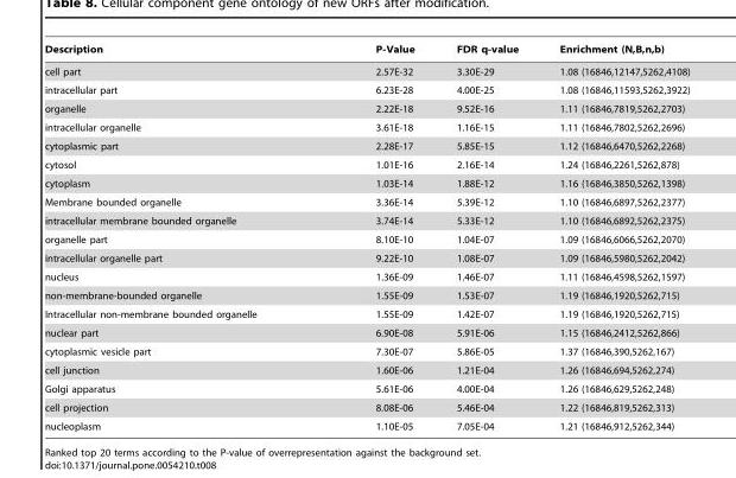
<table><thead><tr><td>Description</td><td>P-Value</td><td>FDR q-value</td><td>Enrichment (N,B,n,b)</td></tr></thead><tbody><tr><td>cell part</td><td>2.57E-32</td><td>3.30E-29</td><td>1.08 (16846,12147,5262,4108)</td></tr><tr><td>intracellular part</td><td>6.23E-28</td><td>4.00E-25</td><td>1.08 (16846,11593,5262,3922)</td></tr><tr><td>organelle</td><td>2.22E-18</td><td>9.52E-16</td><td>1.11 (16846,7819,5262,2703)</td></tr><tr><td>intracellular organelle</td><td>3.61E-18</td><td>1.16E-15</td><td>1.11 (16846,7802,5262,2696)</td></tr><tr><td>cytoplasmic part</td><td>2.28E-17</td><td>5.85E-15</td><td>1.12 (16846,6470,5262,2268)</td></tr><tr><td>cytosol</td><td>1.01E-16</td><td>2.16E-14</td><td>1.24 (16846,2261,5262,878)</td></tr><tr><td>cytoplasm</td><td>1.03E-14</td><td>1.88E-12</td><td>1.16 (16846,3850,5262,1398)</td></tr><tr><td>Membrane bounded organelle</td><td>3.36E-14</td><td>5.39E-12</td><td>1.10 (16846,6897,5262,2377)</td></tr><tr><td>intracellular membrane bounded organelle</td><td>3.74E-14</td><td>5.33E-12</td><td>1.10 (16846,6892,5262,2375)</td></tr><tr><td>organelle part</td><td>8.10E-10</td><td>1.04E-07</td><td>1.09 (16846,6066,5262,2070)</td></tr><tr><td>intracellular organelle part</td><td>9.22E-10</td><td>1.08E-07</td><td>1.09 (16846,5980,5262,2042)</td></tr><tr><td>nucleus</td><td>1.36E-09</td><td>1.46E-07</td><td>1.11 (16846,4598,5262,1597)</td></tr><tr><td>non-membrane-bounded organelle</td><td>1.55E-09</td><td>1.53E-07</td><td>1.19 (16846,1920,5262,715)</td></tr><tr><td>Intracellular non-membrane bounded organelle</td><td>1.55E-09</td><td>1.42E-07</td><td>1.19 (16846,1920,5262,715)</td></tr><tr><td>nuclear part</td><td>6.90E-08</td><td>5.91E-06</td><td>1.15 (16846,2412,5262,866)</td></tr><tr><td>cytoplasmic vesicle part</td><td>7.30E-07</td><td>5.86E-05</td><td>1.37 (16846,390,5262,167)</td></tr><tr><td>cell junction</td><td>1.60E-06</td><td>1.21E-04</td><td>1.26 (16846,694,5262,274)</td></tr><tr><td>Golgi apparatus</td><td>5.61E-06</td><td>4.00E-04</td><td>1.26 (16846,629,5262,248)</td></tr><tr><td>cell projection</td><td>8.08E-06</td><td>5.46E-04</td><td>1.22 (16846,819,5262,313)</td></tr><tr><td>nucleoplasm</td><td>1.10E-05</td><td>7.05E-04</td><td>1.21 (16846,912,5262,344)</td></tr></tbody></table>